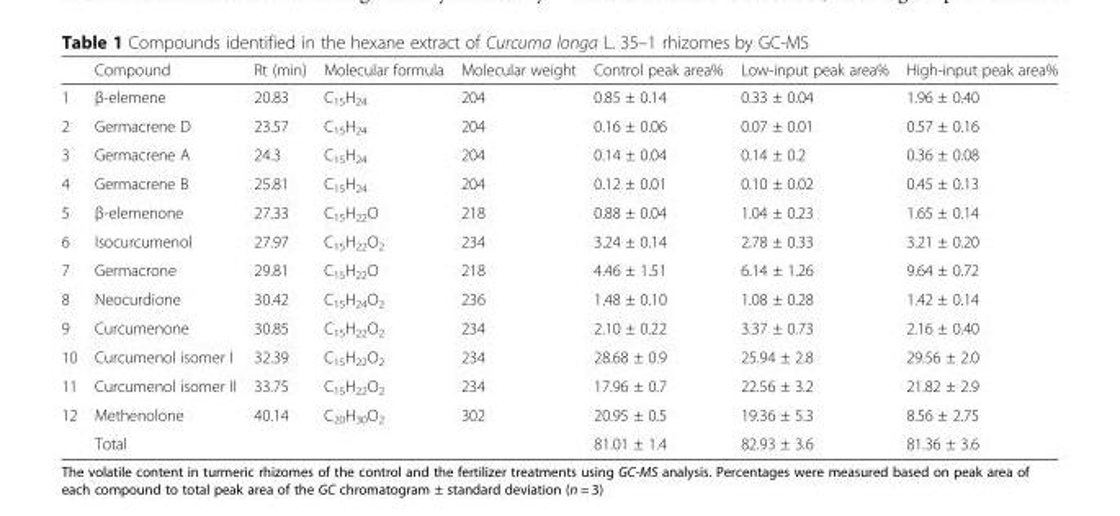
<table><thead><tr><td></td><td>Compound</td><td>Rt (min)</td><td>Molecular formula</td><td>Molecular weight</td><td>Control peak area%</td><td>Low-input peak area%</td><td>High-input peak area%</td></tr></thead><tbody><tr><td>1</td><td>β-elemene</td><td>20.83</td><td>C<sub>15</sub>H<sub>24</sub></td><td>204</td><td>0.85 ± 0.14</td><td>0.33 ± 0.04</td><td>1.96 ± 0.40</td></tr><tr><td>2</td><td>Germacrene D</td><td>23.57</td><td>C<sub>15</sub>H<sub>24</sub></td><td>204</td><td>0.16 ± 0.06</td><td>0.07 ± 0.01</td><td>0.57 ± 0.16</td></tr><tr><td>3</td><td>Germacrene A</td><td>24.3</td><td>C<sub>15</sub>H<sub>24</sub></td><td>204</td><td>0.14 ± 0.04</td><td>0.14 ± 0.2</td><td>0.36 ± 0.08</td></tr><tr><td>4</td><td>Germacrene B</td><td>25.81</td><td>C<sub>15</sub>H<sub>24</sub></td><td>204</td><td>0.12 ± 0.01</td><td>0.10 ± 0.02</td><td>0.45 ± 0.13</td></tr><tr><td>5</td><td>β-elemenone</td><td>27.33</td><td>C<sub>15</sub>H<sub>22</sub>O</td><td>218</td><td>0.88 ± 0.04</td><td>1.04 ± 0.23</td><td>1.65 ± 0.14</td></tr><tr><td>6</td><td>Isocurcumenol</td><td>27.97</td><td>C<sub>15</sub>H<sub>22</sub>O<sub>2</sub></td><td>234</td><td>3.24 ± 0.14</td><td>2.78 ± 0.33</td><td>3.21 ± 0.20</td></tr><tr><td>7</td><td>Germacrone</td><td>29.81</td><td>C<sub>15</sub>H<sub>22</sub>O</td><td>218</td><td>4.46 ± 1.51</td><td>6.14 ± 1.26</td><td>9.64 ± 0.72</td></tr><tr><td>8</td><td>Neocurdione</td><td>30.42</td><td>C<sub>15</sub>H<sub>24</sub>O<sub>2</sub></td><td>236</td><td>1.48 ± 0.10</td><td>1.08 ± 0.28</td><td>1.42 ± 0.14</td></tr><tr><td>9</td><td>Curcumenone</td><td>30.85</td><td>C<sub>15</sub>H<sub>22</sub>O<sub>2</sub></td><td>234</td><td>2.10 ± 0.22</td><td>3.37 ± 0.73</td><td>2.16 ± 0.40</td></tr><tr><td>10</td><td>Curcumenol isomer I</td><td>32.39</td><td>C<sub>15</sub>H<sub>22</sub>O<sub>2</sub></td><td>234</td><td>28.68 ± 0.9</td><td>25.94 ± 2.8</td><td>29.56 ± 2.0</td></tr><tr><td>11</td><td>Curcumenol isomer II</td><td>33.75</td><td>C<sub>15</sub>H<sub>22</sub>O<sub>2</sub></td><td>234</td><td>17.96 ± 0.7</td><td>22.56 ± 3.2</td><td>21.82 ± 2.9</td></tr><tr><td rowspan="2">12</td><td>Methenolone</td><td rowspan="2">40.14</td><td rowspan="2">C<sub>20</sub>H<sub>30</sub>O<sub>2</sub></td><td rowspan="2">302</td><td>20.95 ± 0.5</td><td>19.36 ± 5.3</td><td>8.56 ± 2.75</td></tr><tr><td>Total</td><td>81.01 ± 1.4</td><td>82.93 ± 3.6</td><td>81.36 ± 3.6</td></tr></tbody></table>